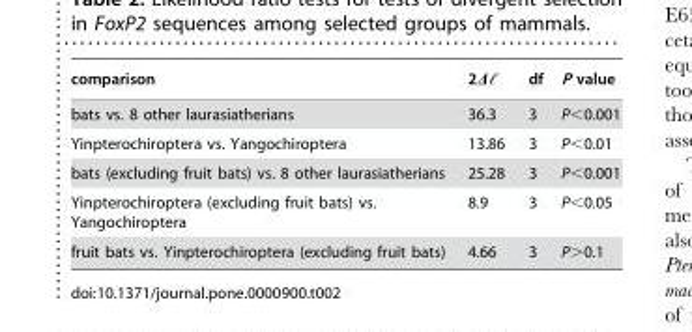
<table><thead><tr><td>comparison</td><td>2D,</td><td>df</td><td>P value</td></tr></thead><tbody><tr><td>bats vs. 8 other laurasiatherians</td><td>36.3</td><td>3</td><td>P&lt;0.001</td></tr><tr><td>Yinpterochiroptera vs. Yangochiroptera</td><td>13.86</td><td>3</td><td>P&lt;0.01</td></tr><tr><td>bats (excluding fruit bats) vs. 8 other laurasiatherians</td><td>25.28</td><td>3</td><td>P&lt;0.001</td></tr><tr><td>Yinpterochiroptera (excluding fruit bats) vs. Yangochiroptera</td><td>8.9</td><td>3</td><td>P&lt;0.05</td></tr><tr><td>fruit bats vs. Yinpterochiroptera (excluding fruit bats)</td><td>4.66</td><td>3</td><td>P&gt;0.1</td></tr></tbody></table>